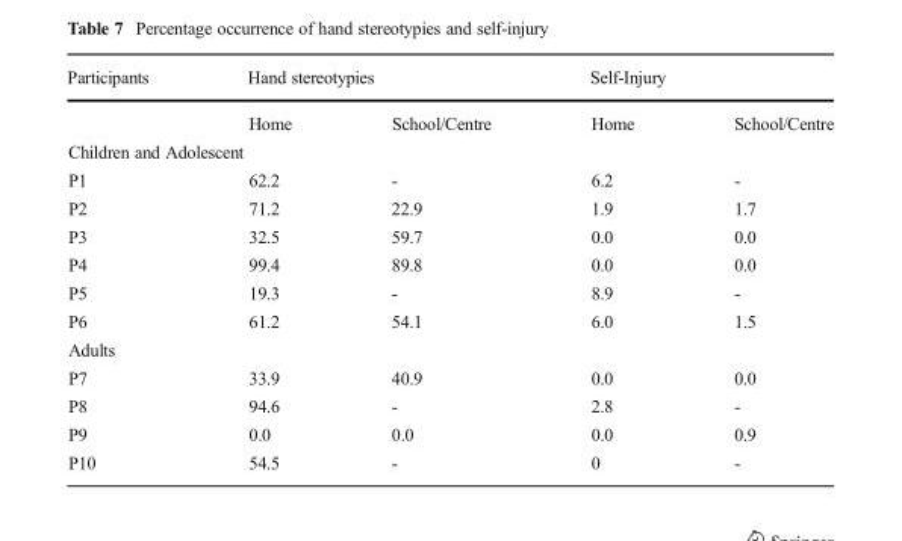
<table><thead><tr><td rowspan="2">Participants</td><td colspan="2">Hand stereotypies</td><td colspan="2">Self-Injury</td></tr><tr><td>Home</td><td>School/Centre</td><td>Home</td><td>School/Centre</td></tr></thead><tbody><tr><td colspan="5">Children and Adolescent</td></tr><tr><td>P1</td><td>62.2</td><td>-</td><td>6.2</td><td>-</td></tr><tr><td>P2</td><td>71.2</td><td>22.9</td><td>1.9</td><td>1.7</td></tr><tr><td>P3</td><td>32.5</td><td>59.7</td><td>0.0</td><td>0.0</td></tr><tr><td>P4</td><td>99.4</td><td>89.8</td><td>0.0</td><td>0.0</td></tr><tr><td>P5</td><td>19.3</td><td>-</td><td>8.9</td><td>-</td></tr><tr><td>P6</td><td>61.2</td><td>54.1</td><td>6.0</td><td>1.5</td></tr><tr><td colspan="5">Adults</td></tr><tr><td>P7</td><td>33.9</td><td>40.9</td><td>0.0</td><td>0.0</td></tr><tr><td>P8</td><td>94.6</td><td>-</td><td>2.8</td><td>-</td></tr><tr><td>P9</td><td>0.0</td><td>0.0</td><td>0.0</td><td>0.9</td></tr><tr><td>P10</td><td>54.5</td><td>-</td><td>0</td><td>-</td></tr></tbody></table>